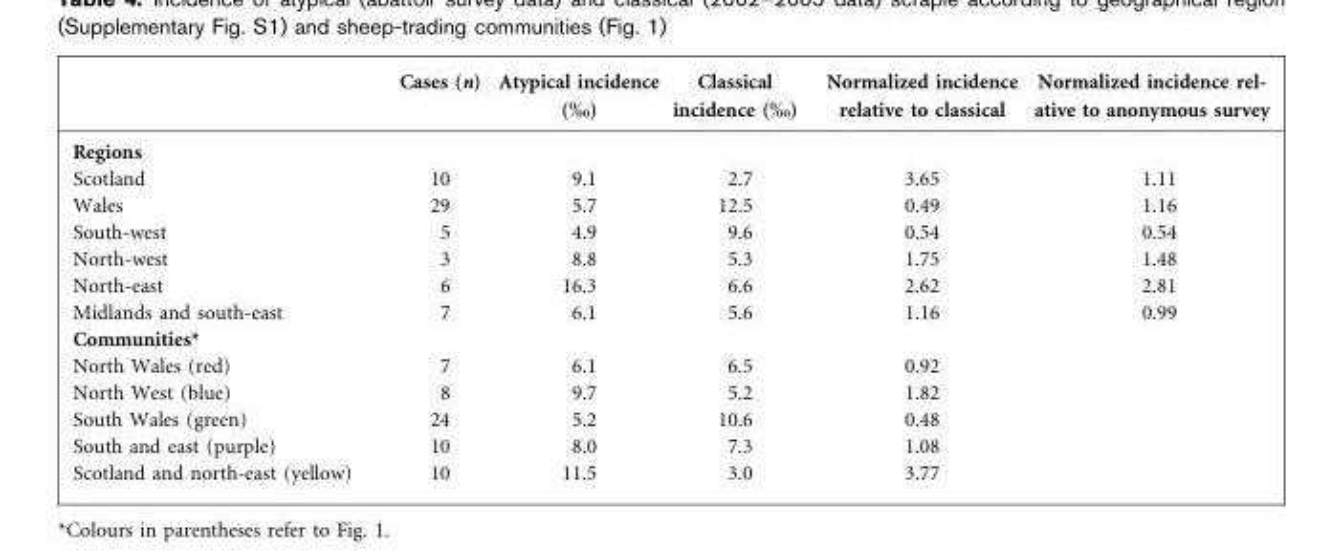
<table><thead><tr><td></td><td>Cases (n)</td><td>Atypical incidence (‰)</td><td>Classical incidence (‰)</td><td>Normalized incidence relative to classical</td><td>Normalized incidence rel- ative to anonymous survey</td></tr></thead><tbody><tr><td colspan="6">Regions</td></tr><tr><td>Scotland</td><td>10</td><td>9.1</td><td>2.7</td><td>3.65</td><td>1.11</td></tr><tr><td>Wales</td><td>29</td><td>5.7</td><td>12.5</td><td>0.49</td><td>1.16</td></tr><tr><td>South-west</td><td>5</td><td>4.9</td><td>9.6</td><td>0.54</td><td>0.54</td></tr><tr><td>North-west</td><td>3</td><td>8.8</td><td>5.3</td><td>1.75</td><td>1.48</td></tr><tr><td>North-east</td><td>6</td><td>16.3</td><td>6.6</td><td>2.62</td><td>2.81</td></tr><tr><td>Midlands and south-east</td><td>7</td><td>6.1</td><td>5.6</td><td>1.16</td><td>0.99</td></tr><tr><td colspan="6">Communities*</td></tr><tr><td>North Wales (red)</td><td>7</td><td>6.1</td><td>6.5</td><td>0.92</td><td></td></tr><tr><td>North West (blue)</td><td>8</td><td>9.7</td><td>5.2</td><td>1.82</td><td></td></tr><tr><td>South Wales (green)</td><td>24</td><td>5.2</td><td>10.6</td><td>0.48</td><td></td></tr><tr><td>South and east (purple)</td><td>10</td><td>8.0</td><td>7.3</td><td>1.08</td><td></td></tr><tr><td>Scotland and north-east (yellow)</td><td>10</td><td>11.5</td><td>3.0</td><td>3.77</td><td></td></tr></tbody></table>